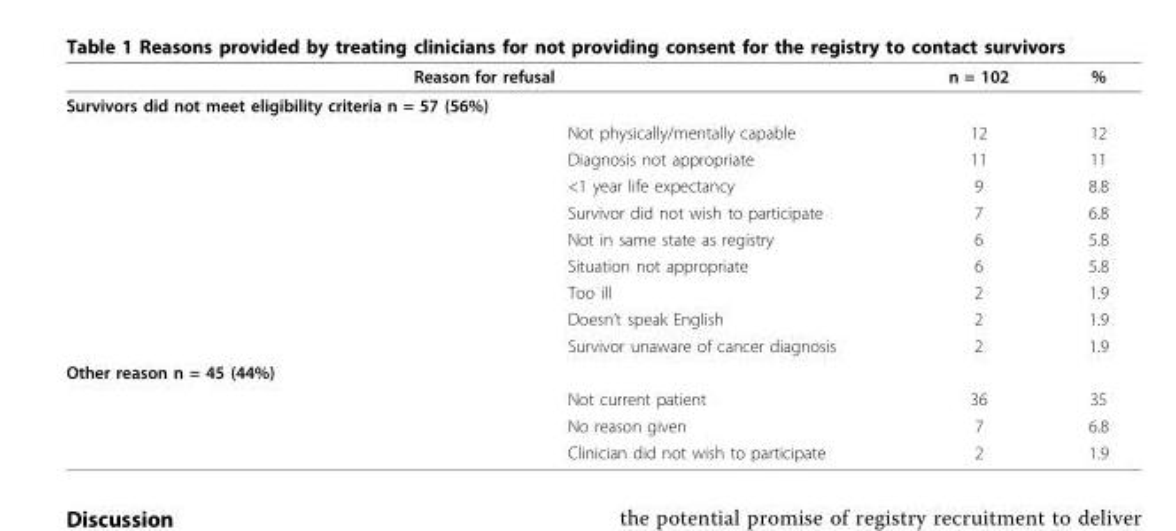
<table><thead><tr><td colspan="2">Reason for refusal</td><td rowspan="2">n = 102</td><td rowspan="2">%</td></tr><tr><td>Survivors did not meet eligibility criteria n = 57 (56%)</td><td></td></tr></thead><tbody><tr><td></td><td>Not physically/mentally capable</td><td>12</td><td>12</td></tr><tr><td></td><td>Diagnosis not appropriate</td><td>11</td><td>11</td></tr><tr><td></td><td>&lt;1 year life expectancy</td><td>9</td><td>8.8</td></tr><tr><td></td><td>Survivor did not wish to participate</td><td>7</td><td>6.8</td></tr><tr><td></td><td>Not in same state as registry</td><td>6</td><td>5.8</td></tr><tr><td></td><td>Situation not appropriate</td><td>6</td><td>5.8</td></tr><tr><td></td><td>Too ill</td><td>2</td><td>1.9</td></tr><tr><td></td><td>Doesn’t speak English</td><td>2</td><td>1.9</td></tr><tr><td></td><td>Survivor unaware of cancer diagnosis</td><td>2</td><td>1.9</td></tr><tr><td colspan="4">Other reason n = 45 (44%)</td></tr><tr><td></td><td>Not current patient</td><td>36</td><td>35</td></tr><tr><td></td><td>No reason given</td><td>7</td><td>6.8</td></tr><tr><td></td><td>Clinician did not wish to participate</td><td>2</td><td>1.9</td></tr></tbody></table>